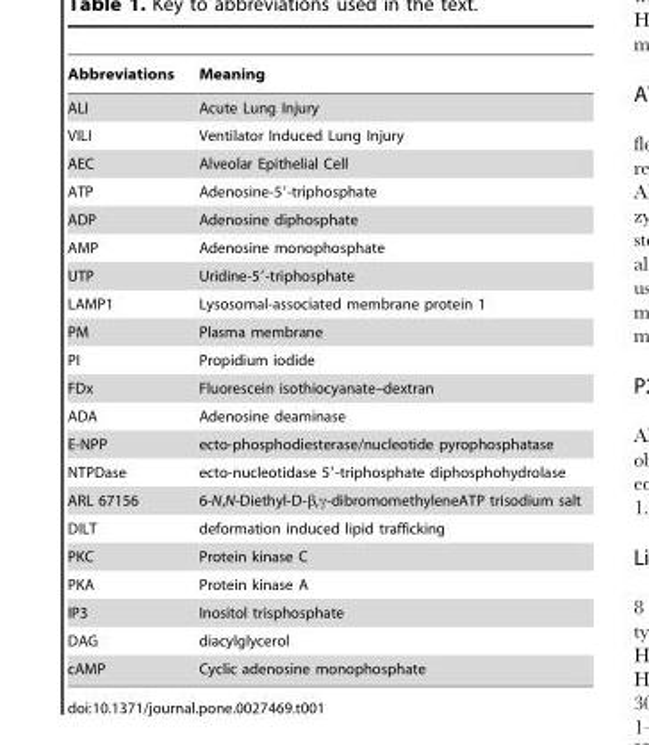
<table><thead><tr><td>Abbreviations</td><td>Meaning</td></tr></thead><tbody><tr><td>ALI</td><td>Acute Lung Injury</td></tr><tr><td>VILI</td><td>Ventilator Induced Lung Injury</td></tr><tr><td>AEC</td><td>Alveolar Epithelial Cell</td></tr><tr><td>ATP</td><td>Adenosine-5′-triphosphate</td></tr><tr><td>ADP</td><td>Adenosine diphosphate</td></tr><tr><td>AMP</td><td>Adenosine monophosphate</td></tr><tr><td>UTP</td><td>Uridine-5′-triphosphate</td></tr><tr><td>LAMP1</td><td>Lysosomal-associated membrane protein 1</td></tr><tr><td>PM</td><td>Plasma membrane</td></tr><tr><td>PI</td><td>Propidium iodide</td></tr><tr><td>FDx</td><td>Fluorescein isothiocyanate–dextran</td></tr><tr><td>ADA</td><td>Adenosine deaminase</td></tr><tr><td>E-NPP</td><td>ecto-phosphodiesterase/nucleotide pyrophosphatase</td></tr><tr><td>NTPDase</td><td>ecto-nucleotidase 5′-triphosphate diphosphohydrolase</td></tr><tr><td>ARL 67156</td><td>6-N,N-Diethyl-D-β,γ-dibromomethyleneATP trisodium salt</td></tr><tr><td>DILT</td><td>deformation induced lipid trafficking</td></tr><tr><td>PKC</td><td>Protein kinase C</td></tr><tr><td>PKA</td><td>Protein kinase A</td></tr><tr><td>IP3</td><td>Inositol trisphosphate</td></tr><tr><td>DAG</td><td>diacylglycerol</td></tr><tr><td>cAMP</td><td>Cyclic adenosine monophosphate</td></tr></tbody></table>